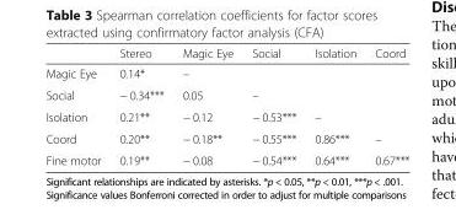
<table><thead><tr><td></td><td>Stereo</td><td>Magic Eye</td><td>Social</td><td>Isolation</td><td>Coord</td></tr></thead><tbody><tr><td>Magic Eye</td><td>0.14*</td><td>–</td><td></td><td></td><td></td></tr><tr><td>Social</td><td>− 0.34***</td><td>0.05</td><td>–</td><td></td><td></td></tr><tr><td>Isolation</td><td>0.21**</td><td>− 0.12</td><td>− 0.53***</td><td>–</td><td></td></tr><tr><td>Coord</td><td>0.20**</td><td>− 0.18**</td><td>− 0.55***</td><td>0.86***</td><td>–</td></tr><tr><td>Fine motor</td><td>0.19**</td><td>− 0.08</td><td>− 0.54***</td><td>0.64***</td><td>0.67***</td></tr></tbody></table>